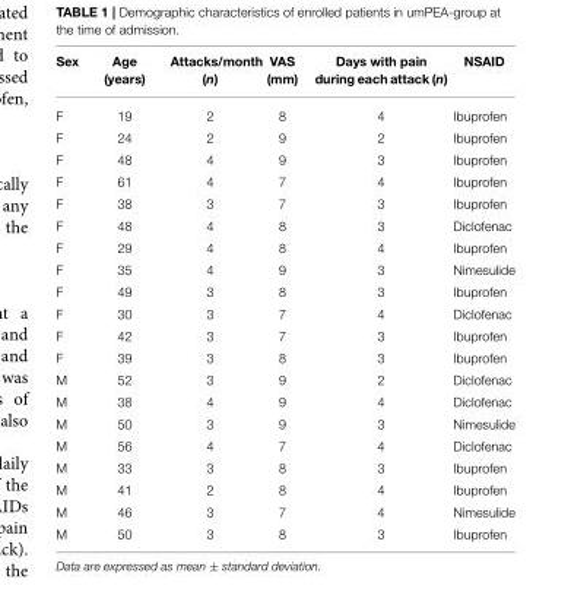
<table><thead><tr><td>Sex</td><td>Age (years)</td><td>Attacks/month (n)</td><td>VAS (mm)</td><td>Days with pain during each attack (n)</td><td>NSAID</td></tr></thead><tbody><tr><td>F</td><td>19</td><td>2</td><td>8</td><td>4</td><td>Ibuprofen</td></tr><tr><td>F</td><td>24</td><td>2</td><td>9</td><td>2</td><td>Ibuprofen</td></tr><tr><td>F</td><td>48</td><td>4</td><td>9</td><td>3</td><td>Ibuprofen</td></tr><tr><td>F</td><td>61</td><td>4</td><td>7</td><td>4</td><td>Ibuprofen</td></tr><tr><td>F</td><td>38</td><td>3</td><td>7</td><td>3</td><td>Ibuprofen</td></tr><tr><td>F</td><td>48</td><td>4</td><td>8</td><td>3</td><td>Diclofenac</td></tr><tr><td>F</td><td>29</td><td>4</td><td>8</td><td>4</td><td>Ibuprofen</td></tr><tr><td>F</td><td>35</td><td>4</td><td>9</td><td>3</td><td>Nimesulide</td></tr><tr><td>F</td><td>49</td><td>3</td><td>8</td><td>3</td><td>Ibuprofen</td></tr><tr><td>F</td><td>30</td><td>3</td><td>7</td><td>4</td><td>Diclofenac</td></tr><tr><td>F</td><td>42</td><td>3</td><td>7</td><td>3</td><td>Ibuprofen</td></tr><tr><td>F</td><td>39</td><td>3</td><td>8</td><td>3</td><td>Ibuprofen</td></tr><tr><td>M</td><td>52</td><td>3</td><td>9</td><td>2</td><td>Diclofenac</td></tr><tr><td>M</td><td>38</td><td>4</td><td>9</td><td>4</td><td>Diclofenac</td></tr><tr><td>M</td><td>50</td><td>3</td><td>9</td><td>3</td><td>Nimesulide</td></tr><tr><td>M</td><td>56</td><td>4</td><td>7</td><td>4</td><td>Diclofenac</td></tr><tr><td>M</td><td>33</td><td>3</td><td>8</td><td>3</td><td>Ibuprofen</td></tr><tr><td>M</td><td>41</td><td>2</td><td>8</td><td>4</td><td>Ibuprofen</td></tr><tr><td>M</td><td>46</td><td>3</td><td>7</td><td>4</td><td>Nimesulide</td></tr><tr><td>M</td><td>50</td><td>3</td><td>8</td><td>3</td><td>Ibuprofen</td></tr></tbody></table>